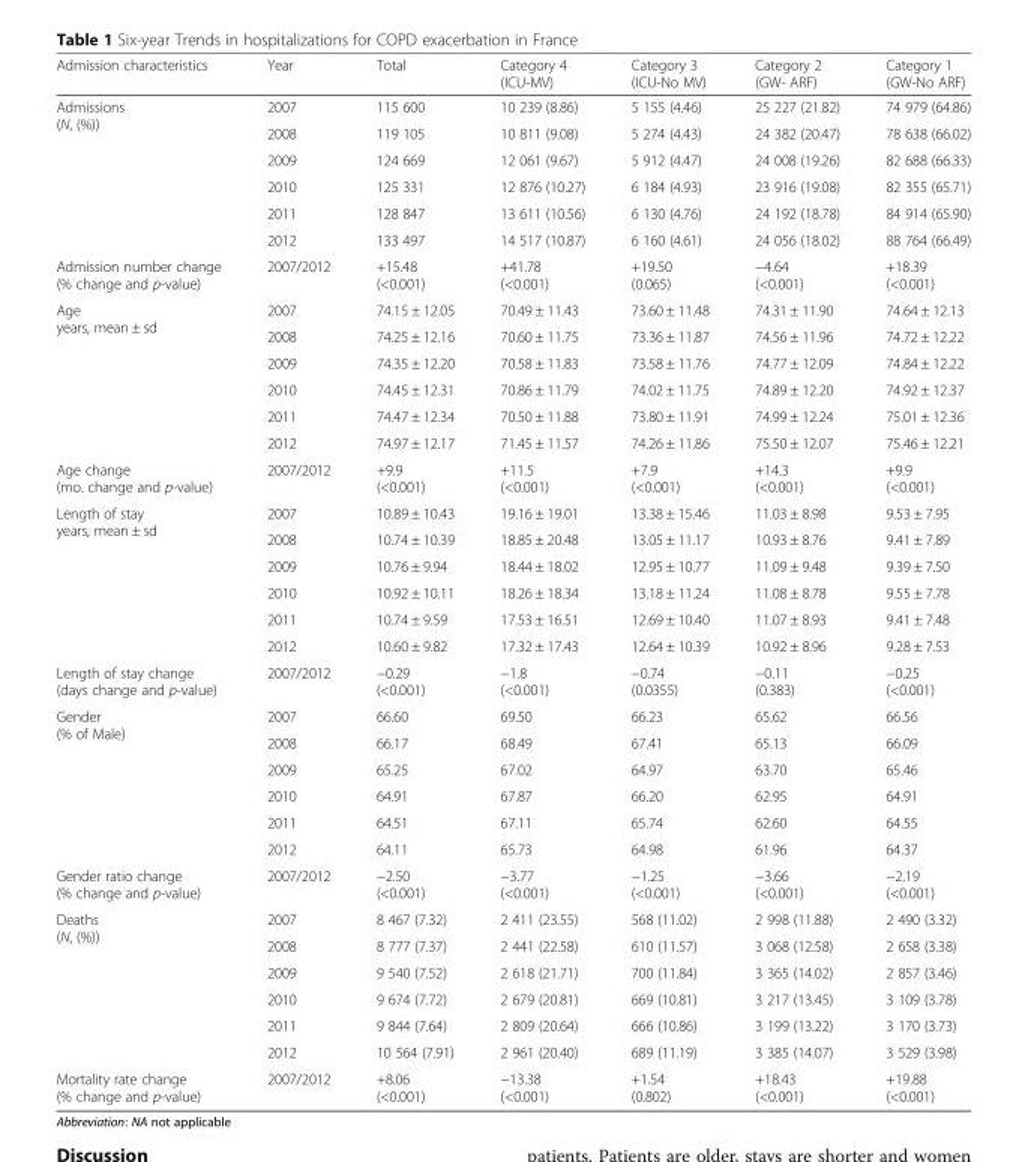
<table><thead><tr><td>Admission characteristics</td><td>Year</td><td>Total</td><td>Category 4 (ICU-MV)</td><td>Category 3 (ICU-No MV)</td><td>Category 2 (GW- ARF)</td><td>Category 1 (GW-No ARF)</td></tr></thead><tbody><tr><td rowspan="6">Admissions (N, (%))</td><td>2007</td><td>115 600</td><td>10 239 (8.86)</td><td>5 155 (4.46)</td><td>25 227 (21.82)</td><td>74 979 (64.86)</td></tr><tr><td>2008</td><td>119 105</td><td>10 811 (9.08)</td><td>5 274 (4.43)</td><td>24 382 (20.47)</td><td>78 638 (66.02)</td></tr><tr><td>2009</td><td>124 669</td><td>12 061 (9.67)</td><td>5 912 (4.47)</td><td>24 008 (19.26)</td><td>82 688 (66.33)</td></tr><tr><td>2010</td><td>125 331</td><td>12 876 (10.27)</td><td>6 184 (4.93)</td><td>23 916 (19.08)</td><td>82 355 (65.71)</td></tr><tr><td>2011</td><td>128 847</td><td>13 611 (10.56)</td><td>6 130 (4.76)</td><td>24 192 (18.78)</td><td>84 914 (65.90)</td></tr><tr><td>2012</td><td>133 497</td><td>14 517 (10.87)</td><td>6 160 (4.61)</td><td>24 056 (18.02)</td><td>88 764 (66.49)</td></tr><tr><td>Admission number change (% change and p-value)</td><td>2007/2012</td><td>+15.48 (&lt;0.001)</td><td>+41.78 (&lt;0.001)</td><td>+19.50 (0.065)</td><td>−4.64 (&lt;0.001)</td><td>+18.39 (&lt;0.001)</td></tr><tr><td rowspan="6">Age years, mean ± sd</td><td>2007</td><td>74.15 ± 12.05</td><td>70.49 ± 11.43</td><td>73.60 ± 11.48</td><td>74.31 ± 11.90</td><td>74.64 ± 12.13</td></tr><tr><td>2008</td><td>74.25 ± 12.16</td><td>70.60 ± 11.75</td><td>73.36 ± 11.87</td><td>74.56 ± 11.96</td><td>74.72 ± 12.22</td></tr><tr><td>2009</td><td>74.35 ± 12.20</td><td>70.58 ± 11.83</td><td>73.58 ± 11.76</td><td>74.77 ± 12.09</td><td>74.84 ± 12.22</td></tr><tr><td>2010</td><td>74.45 ± 12.31</td><td>70.86 ± 11.79</td><td>74.02 ± 11.75</td><td>74.89 ± 12.20</td><td>74.92 ± 12.37</td></tr><tr><td>2011</td><td>74.47 ± 12.34</td><td>70.50 ± 11.88</td><td>73.80 ± 11.91</td><td>74.99 ± 12.24</td><td>75.01 ± 12.36</td></tr><tr><td>2012</td><td>74.97 ± 12.17</td><td>71.45 ± 11.57</td><td>74.26 ± 11.86</td><td>75.50 ± 12.07</td><td>75.46 ± 12.21</td></tr><tr><td>Age change (mo. change and p-value)</td><td>2007/2012</td><td>+9.9 (&lt;0.001)</td><td>+11.5 (&lt;0.001)</td><td>+7.9 (&lt;0.001)</td><td>+14.3 (&lt;0.001)</td><td>+9.9 (&lt;0.001)</td></tr><tr><td rowspan="6">Length of stay years, mean ± sd</td><td>2007</td><td>10.89 ± 10.43</td><td>19.16 ± 19.01</td><td>13.38 ± 15.46</td><td>11.03 ± 8.98</td><td>9.53 ± 7.95</td></tr><tr><td>2008</td><td>10.74 ± 10.39</td><td>18.85 ± 20.48</td><td>13.05 ± 11.17</td><td>10.93 ± 8.76</td><td>9.41 ± 7.89</td></tr><tr><td>2009</td><td>10.76 ± 9.94</td><td>18.44 ± 18.02</td><td>12.95 ± 10.77</td><td>11.09 ± 9.48</td><td>9.39 ± 7.50</td></tr><tr><td>2010</td><td>10.92 ± 10.11</td><td>18.26 ± 18.34</td><td>13.18 ± 11.24</td><td>11.08 ± 8.78</td><td>9.55 ± 7.78</td></tr><tr><td>2011</td><td>10.74 ± 9.59</td><td>17.53 ± 16.51</td><td>12.69 ± 10.40</td><td>11.07 ± 8.93</td><td>9.41 ± 7.48</td></tr><tr><td>2012</td><td>10.60 ± 9.82</td><td>17.32 ± 17.43</td><td>12.64 ± 10.39</td><td>10.92 ± 8.96</td><td>9.28 ± 7.53</td></tr><tr><td>Length of stay change (days change and p-value)</td><td>2007/2012</td><td>−0.29 (&lt;0.001)</td><td>−1.8 (&lt;0.001)</td><td>−0.74 (0.0355)</td><td>−0.11 (0.383)</td><td>−0.25 (&lt;0.001)</td></tr><tr><td rowspan="6">Gender (% of Male)</td><td>2007</td><td>66.60</td><td>69.50</td><td>66.23</td><td>65.62</td><td>66.56</td></tr><tr><td>2008</td><td>66.17</td><td>68.49</td><td>67.41</td><td>65.13</td><td>66.09</td></tr><tr><td>2009</td><td>65.25</td><td>67.02</td><td>64.97</td><td>63.70</td><td>65.46</td></tr><tr><td>2010</td><td>64.91</td><td>67.87</td><td>66.20</td><td>62.95</td><td>64.91</td></tr><tr><td>2011</td><td>64.51</td><td>67.11</td><td>65.74</td><td>62.60</td><td>64.55</td></tr><tr><td>2012</td><td>64.11</td><td>65.73</td><td>64.98</td><td>61.96</td><td>64.37</td></tr><tr><td>Gender ratio change (% change and p-value)</td><td>2007/2012</td><td>−2.50 (&lt;0.001)</td><td>−3.77 (&lt;0.001)</td><td>−1.25 (&lt;0.001)</td><td>−3.66 (&lt;0.001)</td><td>−2.19 (&lt;0.001)</td></tr><tr><td rowspan="6">Deaths (N, (%))</td><td>2007</td><td>8 467 (7.32)</td><td>2 411 (23.55)</td><td>568 (11.02)</td><td>2 998 (11.88)</td><td>2 490 (3.32)</td></tr><tr><td>2008</td><td>8 777 (7.37)</td><td>2 441 (22.58)</td><td>610 (11.57)</td><td>3 068 (12.58)</td><td>2 658 (3.38)</td></tr><tr><td>2009</td><td>9 540 (7.52)</td><td>2 618 (21.71)</td><td>700 (11.84)</td><td>3 365 (14.02)</td><td>2 857 (3.46)</td></tr><tr><td>2010</td><td>9 674 (7.72)</td><td>2 679 (20.81)</td><td>669 (10.81)</td><td>3 217 (13.45)</td><td>3 109 (3.78)</td></tr><tr><td>2011</td><td>9 844 (7.64)</td><td>2 809 (20.64)</td><td>666 (10.86)</td><td>3 199 (13.22)</td><td>3 170 (3.73)</td></tr><tr><td>2012</td><td>10 564 (7.91)</td><td>2 961 (20.40)</td><td>689 (11.19)</td><td>3 385 (14.07)</td><td>3 529 (3.98)</td></tr><tr><td>Mortality rate change (% change and p-value)</td><td>2007/2012</td><td>+8.06 (&lt;0.001)</td><td>−13.38 (&lt;0.001)</td><td>+1.54 (0.802)</td><td>+18.43 (&lt;0.001)</td><td>+19.88 (&lt;0.001)</td></tr></tbody></table>